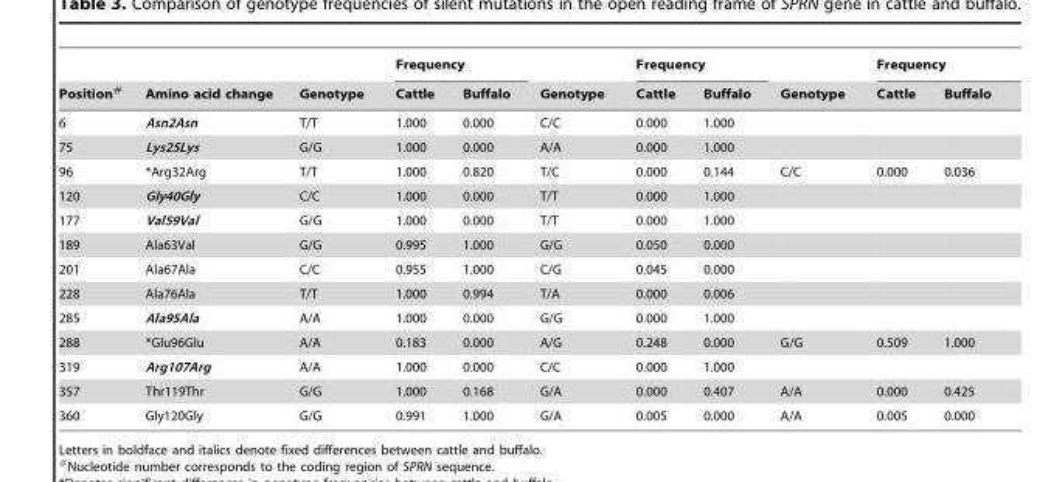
<table><thead><tr><td rowspan="2">Position#</td><td rowspan="2">Amino acid change</td><td rowspan="2">Genotype</td><td colspan="2">Frequency</td><td rowspan="2">Genotype</td><td colspan="2">Frequency</td><td rowspan="2">Genotype</td><td colspan="2">Frequency</td></tr><tr><td>Cattle</td><td>Buffalo</td><td>Cattle</td><td>Buffalo</td><td>Cattle</td><td>Buffalo</td></tr></thead><tbody><tr><td>6</td><td>Asn2Asn</td><td>T/T</td><td>1.000</td><td>0.000</td><td>C/C</td><td>0.000</td><td>1.000</td><td></td><td></td><td></td></tr><tr><td>75</td><td>Lys25Lys</td><td>G/G</td><td>1.000</td><td>0.000</td><td>A/A</td><td>0.000</td><td>1.000</td><td></td><td></td><td></td></tr><tr><td>96</td><td>*Arg32Arg</td><td>T/T</td><td>1.000</td><td>0.820</td><td>T/C</td><td>0.000</td><td>0.144</td><td>C/C</td><td>0.000</td><td>0.036</td></tr><tr><td>120</td><td>Gly40Gly</td><td>C/C</td><td>1.000</td><td>0.000</td><td>T/T</td><td>0.000</td><td>1.000</td><td></td><td></td><td></td></tr><tr><td>177</td><td>Val59Val</td><td>G/G</td><td>1.000</td><td>0.000</td><td>T/T</td><td>0.000</td><td>1.000</td><td></td><td></td><td></td></tr><tr><td>189</td><td>Ala63Val</td><td>G/G</td><td>0.995</td><td>1.000</td><td>G/G</td><td>0.050</td><td>0.000</td><td></td><td></td><td></td></tr><tr><td>201</td><td>Ala67Ala</td><td>C/C</td><td>0.955</td><td>1.000</td><td>C/G</td><td>0.045</td><td>0.000</td><td></td><td></td><td></td></tr><tr><td>228</td><td>Ala76Ala</td><td>T/T</td><td>1.000</td><td>0.994</td><td>T/A</td><td>0.000</td><td>0.006</td><td></td><td></td><td></td></tr><tr><td>285</td><td>Ala95Ala</td><td>A/A</td><td>1.000</td><td>0.000</td><td>G/G</td><td>0.000</td><td>1.000</td><td></td><td></td><td></td></tr><tr><td>288</td><td>*Glu96Glu</td><td>A/A</td><td>0.183</td><td>0.000</td><td>A/G</td><td>0.248</td><td>0.000</td><td>G/G</td><td>0.509</td><td>1.000</td></tr><tr><td>319</td><td>Arg107Arg</td><td>A/A</td><td>1.000</td><td>0.000</td><td>C/C</td><td>0.000</td><td>1.000</td><td></td><td></td><td></td></tr><tr><td>357</td><td>Thr119Thr</td><td>G/G</td><td>1.000</td><td>0.168</td><td>G/A</td><td>0.000</td><td>0.407</td><td>A/A</td><td>0.000</td><td>0.425</td></tr><tr><td>360</td><td>Gly120Gly</td><td>G/G</td><td>0.991</td><td>1.000</td><td>G/A</td><td>0.005</td><td>0.000</td><td>A/A</td><td>0.005</td><td>0.000</td></tr></tbody></table>